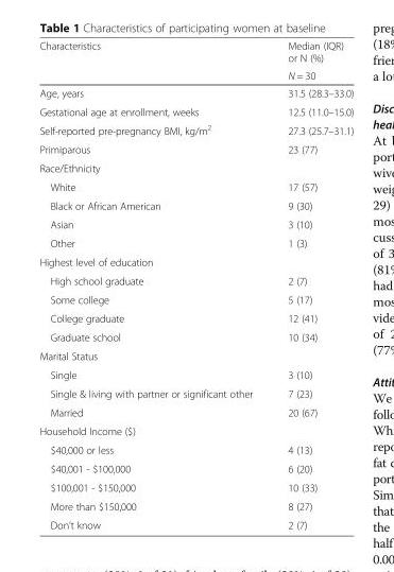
<table><thead><tr><td rowspan="2">Characteristics</td><td rowspan="2">Median (IQR) or N (%) N = 30</td></tr><tr></tr></thead><tbody><tr><td>Age, years</td><td>31.5 (28.3–33.0)</td></tr><tr><td>Gestational age at enrollment, weeks</td><td>12.5 (11.0–15.0)</td></tr><tr><td>Self-reported pre-pregnancy BMI, kg/m<sup>2</sup></td><td>27.3 (25.7–31.1)</td></tr><tr><td>Primiparous</td><td>23 (77)</td></tr><tr><td colspan="2">Race/Ethnicity</td></tr><tr><td>White</td><td>17 (57)</td></tr><tr><td>Black or African American</td><td>9 (30)</td></tr><tr><td>Asian</td><td>3 (10)</td></tr><tr><td>Other</td><td>1 (3)</td></tr><tr><td colspan="2">Highest level of education</td></tr><tr><td>High school graduate</td><td>2 (7)</td></tr><tr><td>Some college</td><td>5 (17)</td></tr><tr><td>College graduate</td><td>12 (41)</td></tr><tr><td>Graduate school</td><td>10 (34)</td></tr><tr><td colspan="2">Marital Status</td></tr><tr><td>Single</td><td>3 (10)</td></tr><tr><td>Single &amp; living with partner or significant other</td><td>7 (23)</td></tr><tr><td>Married</td><td>20 (67)</td></tr><tr><td colspan="2">Household Income ($)</td></tr><tr><td>$40,000 or less</td><td>4 (13)</td></tr><tr><td>$40,001 - $100,000</td><td>6 (20)</td></tr><tr><td>$100,001 - $150,000</td><td>10 (33)</td></tr><tr><td>More than $150,000</td><td>8 (27)</td></tr><tr><td>Don’t know</td><td>2 (7)</td></tr></tbody></table>